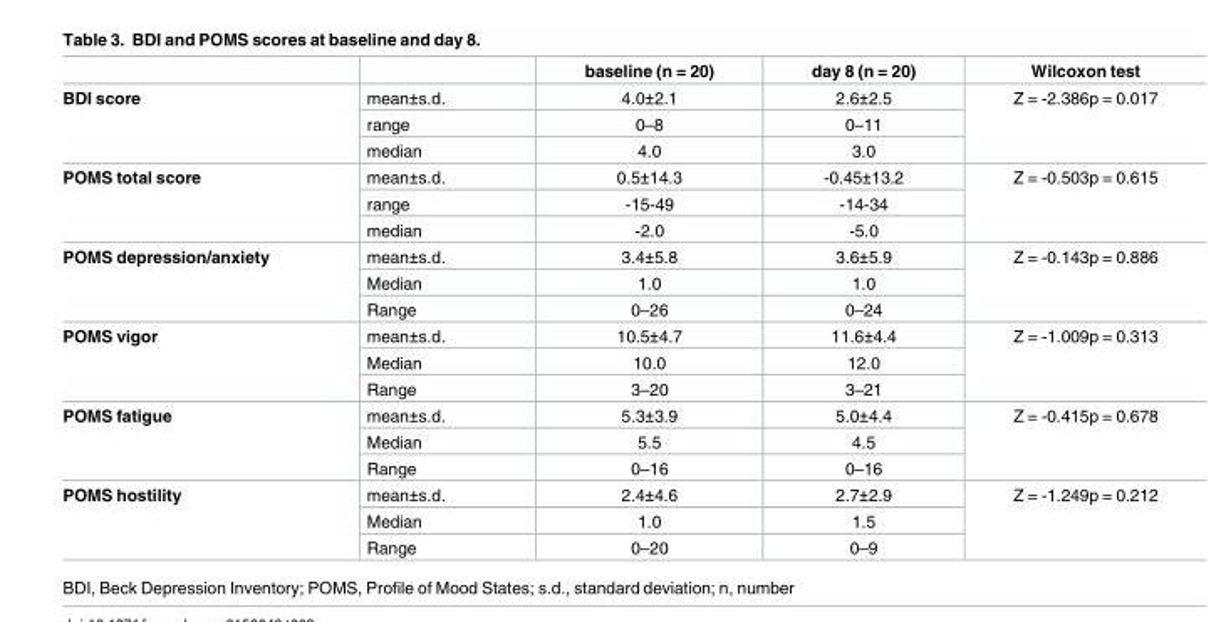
<table><thead><tr><td></td><td></td><td>baseline (n = 20)</td><td>day 8 (n = 20)</td><td>Wilcoxon test</td></tr></thead><tbody><tr><td rowspan="3">BDI score</td><td>mean±s.d.</td><td>4.0±2.1</td><td>2.6±2.5</td><td rowspan="3">Z = -2.386p = 0.017</td></tr><tr><td>range</td><td>0–8</td><td>0–11</td></tr><tr><td>median</td><td>4.0</td><td>3.0</td></tr><tr><td rowspan="3">POMS total score</td><td>mean±s.d.</td><td>0.5±14.3</td><td>-0.45±13.2</td><td rowspan="3">Z = -0.503p = 0.615</td></tr><tr><td>range</td><td>-15-49</td><td>-14-34</td></tr><tr><td>median</td><td>-2.0</td><td>-5.0</td></tr><tr><td rowspan="3">POMS depression/anxiety</td><td>mean±s.d.</td><td>3.4±5.8</td><td>3.6±5.9</td><td rowspan="3">Z = -0.143p = 0.886</td></tr><tr><td>Median</td><td>1.0</td><td>1.0</td></tr><tr><td>Range</td><td>0–26</td><td>0–24</td></tr><tr><td rowspan="3">POMS vigor</td><td>mean±s.d.</td><td>10.5±4.7</td><td>11.6±4.4</td><td rowspan="3">Z = -1.009p = 0.313</td></tr><tr><td>Median</td><td>10.0</td><td>12.0</td></tr><tr><td>Range</td><td>3–20</td><td>3–21</td></tr><tr><td rowspan="3">POMS fatigue</td><td>mean±s.d.</td><td>5.3±3.9</td><td>5.0±4.4</td><td rowspan="3">Z = -0.415p = 0.678</td></tr><tr><td>Median</td><td>5.5</td><td>4.5</td></tr><tr><td>Range</td><td>0–16</td><td>0–16</td></tr><tr><td rowspan="3">POMS hostility</td><td>mean±s.d.</td><td>2.4±4.6</td><td>2.7±2.9</td><td rowspan="3">Z = -1.249p = 0.212</td></tr><tr><td>Median</td><td>1.0</td><td>1.5</td></tr><tr><td>Range</td><td>0–20</td><td>0–9</td></tr></tbody></table>